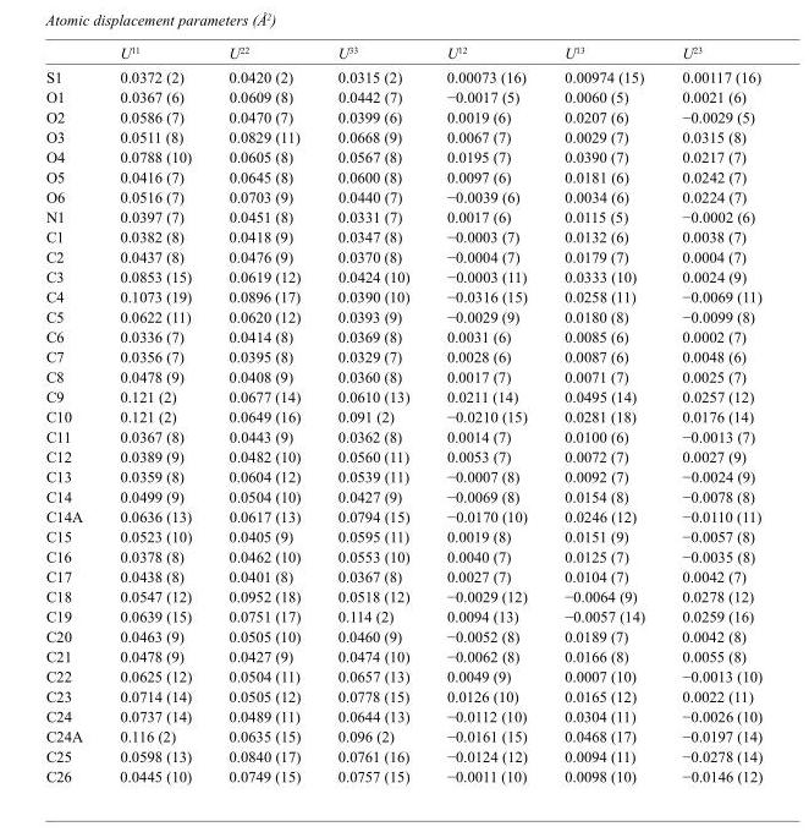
<table><thead><tr><td></td><td>U<sup>11</sup></td><td>U<sup>22</sup></td><td>U<sup>33</sup></td><td>U<sup>12</sup></td><td>U<sup>13</sup></td><td>U<sup>23</sup></td></tr></thead><tbody><tr><td>S1</td><td>0.0372 (2)</td><td>0.0420 (2)</td><td>0.0315 (2)</td><td>0.00073 (16)</td><td>0.00974 (15)</td><td>0.00117 (16)</td></tr><tr><td>O1</td><td>0.0367 (6)</td><td>0.0609 (8)</td><td>0.0442 (7)</td><td>−0.0017 (5)</td><td>0.0060 (5)</td><td>0.0021 (6)</td></tr><tr><td>O2</td><td>0.0586 (7)</td><td>0.0470 (7)</td><td>0.0399 (6)</td><td>0.0019 (6)</td><td>0.0207 (6)</td><td>−0.0029 (5)</td></tr><tr><td>O3</td><td>0.0511 (8)</td><td>0.0829 (11)</td><td>0.0668 (9)</td><td>0.0067 (7)</td><td>0.0029 (7)</td><td>0.0315 (8)</td></tr><tr><td>O4</td><td>0.0788 (10)</td><td>0.0605 (8)</td><td>0.0567 (8)</td><td>0.0195 (7)</td><td>0.0390 (7)</td><td>0.0217 (7)</td></tr><tr><td>O5</td><td>0.0416 (7)</td><td>0.0645 (8)</td><td>0.0600 (8)</td><td>0.0097 (6)</td><td>0.0181 (6)</td><td>0.0242 (7)</td></tr><tr><td>O6</td><td>0.0516 (7)</td><td>0.0703 (9)</td><td>0.0440 (7)</td><td>−0.0039 (6)</td><td>0.0034 (6)</td><td>0.0224 (7)</td></tr><tr><td>N1</td><td>0.0397 (7)</td><td>0.0451 (8)</td><td>0.0331 (7)</td><td>0.0017 (6)</td><td>0.0115 (5)</td><td>−0.0002 (6)</td></tr><tr><td>C1</td><td>0.0382 (8)</td><td>0.0418 (9)</td><td>0.0347 (8)</td><td>−0.0003 (7)</td><td>0.0132 (6)</td><td>0.0038 (7)</td></tr><tr><td>C2</td><td>0.0437 (8)</td><td>0.0476 (9)</td><td>0.0370 (8)</td><td>−0.0004 (7)</td><td>0.0179 (7)</td><td>0.0004 (7)</td></tr><tr><td>C3</td><td>0.0853 (15)</td><td>0.0619 (12)</td><td>0.0424 (10)</td><td>−0.0003 (11)</td><td>0.0333 (10)</td><td>0.0024 (9)</td></tr><tr><td>C4</td><td>0.1073 (19)</td><td>0.0896 (17)</td><td>0.0390 (10)</td><td>−0.0316 (15)</td><td>0.0258 (11)</td><td>−0.0069 (11)</td></tr><tr><td>C5</td><td>0.0622 (11)</td><td>0.0620 (12)</td><td>0.0393 (9)</td><td>−0.0029 (9)</td><td>0.0180 (8)</td><td>−0.0099 (8)</td></tr><tr><td>C6</td><td>0.0336 (7)</td><td>0.0414 (8)</td><td>0.0369 (8)</td><td>0.0031 (6)</td><td>0.0085 (6)</td><td>0.0002 (7)</td></tr><tr><td>C7</td><td>0.0356 (7)</td><td>0.0395 (8)</td><td>0.0329 (7)</td><td>0.0028 (6)</td><td>0.0087 (6)</td><td>0.0048 (6)</td></tr><tr><td>C8</td><td>0.0478 (9)</td><td>0.0408 (9)</td><td>0.0360 (8)</td><td>0.0017 (7)</td><td>0.0071 (7)</td><td>0.0025 (7)</td></tr><tr><td>C9</td><td>0.121 (2)</td><td>0.0677 (14)</td><td>0.0610 (13)</td><td>0.0211 (14)</td><td>0.0495 (14)</td><td>0.0257 (12)</td></tr><tr><td>C10</td><td>0.121 (2)</td><td>0.0649 (16)</td><td>0.091 (2)</td><td>−0.0210 (15)</td><td>0.0281 (18)</td><td>0.0176 (14)</td></tr><tr><td>C11</td><td>0.0367 (8)</td><td>0.0443 (9)</td><td>0.0362 (8)</td><td>0.0014 (7)</td><td>0.0100 (6)</td><td>−0.0013 (7)</td></tr><tr><td>C12</td><td>0.0389 (9)</td><td>0.0482 (10)</td><td>0.0560 (11)</td><td>0.0053 (7)</td><td>0.0072 (7)</td><td>0.0027 (9)</td></tr><tr><td>C13</td><td>0.0359 (8)</td><td>0.0604 (12)</td><td>0.0539 (11)</td><td>−0.0007 (8)</td><td>0.0092 (7)</td><td>−0.0024 (9)</td></tr><tr><td>C14</td><td>0.0499 (9)</td><td>0.0504 (10)</td><td>0.0427 (9)</td><td>−0.0069 (8)</td><td>0.0154 (8)</td><td>−0.0078 (8)</td></tr><tr><td>C14A</td><td>0.0636 (13)</td><td>0.0617 (13)</td><td>0.0794 (15)</td><td>−0.0170 (10)</td><td>0.0246 (12)</td><td>−0.0110 (11)</td></tr><tr><td>C15</td><td>0.0523 (10)</td><td>0.0405 (9)</td><td>0.0595 (11)</td><td>0.0019 (8)</td><td>0.0151 (9)</td><td>−0.0057 (8)</td></tr><tr><td>C16</td><td>0.0378 (8)</td><td>0.0462 (10)</td><td>0.0553 (10)</td><td>0.0040 (7)</td><td>0.0125 (7)</td><td>−0.0035 (8)</td></tr><tr><td>C17</td><td>0.0438 (8)</td><td>0.0401 (8)</td><td>0.0367 (8)</td><td>0.0027 (7)</td><td>0.0104 (7)</td><td>0.0042 (7)</td></tr><tr><td>C18</td><td>0.0547 (12)</td><td>0.0952 (18)</td><td>0.0518 (12)</td><td>−0.0029 (12)</td><td>−0.0064 (9)</td><td>0.0278 (12)</td></tr><tr><td>C19</td><td>0.0639 (15)</td><td>0.0751 (17)</td><td>0.114 (2)</td><td>0.0094 (13)</td><td>−0.0057 (14)</td><td>0.0259 (16)</td></tr><tr><td>C20</td><td>0.0463 (9)</td><td>0.0505 (10)</td><td>0.0460 (9)</td><td>−0.0052 (8)</td><td>0.0189 (7)</td><td>0.0042 (8)</td></tr><tr><td>C21</td><td>0.0478 (9)</td><td>0.0427 (9)</td><td>0.0474 (10)</td><td>−0.0062 (8)</td><td>0.0166 (8)</td><td>0.0055 (8)</td></tr><tr><td>C22</td><td>0.0625 (12)</td><td>0.0504 (11)</td><td>0.0657 (13)</td><td>0.0049 (9)</td><td>0.0007 (10)</td><td>−0.0013 (10)</td></tr><tr><td>C23</td><td>0.0714 (14)</td><td>0.0505 (12)</td><td>0.0778 (15)</td><td>0.0126 (10)</td><td>0.0165 (12)</td><td>0.0022 (11)</td></tr><tr><td>C24</td><td>0.0737 (14)</td><td>0.0489 (11)</td><td>0.0644 (13)</td><td>−0.0112 (10)</td><td>0.0304 (11)</td><td>−0.0026 (10)</td></tr><tr><td>C24A</td><td>0.116 (2)</td><td>0.0635 (15)</td><td>0.096 (2)</td><td>−0.0161 (15)</td><td>0.0468 (17)</td><td>−0.0197 (14)</td></tr><tr><td>C25</td><td>0.0598 (13)</td><td>0.0840 (17)</td><td>0.0761 (16)</td><td>−0.0124 (12)</td><td>0.0094 (11)</td><td>−0.0278 (14)</td></tr><tr><td>C26</td><td>0.0445 (10)</td><td>0.0749 (15)</td><td>0.0757 (15)</td><td>−0.0011 (10)</td><td>0.0098 (10)</td><td>−0.0146 (12)</td></tr></tbody></table>